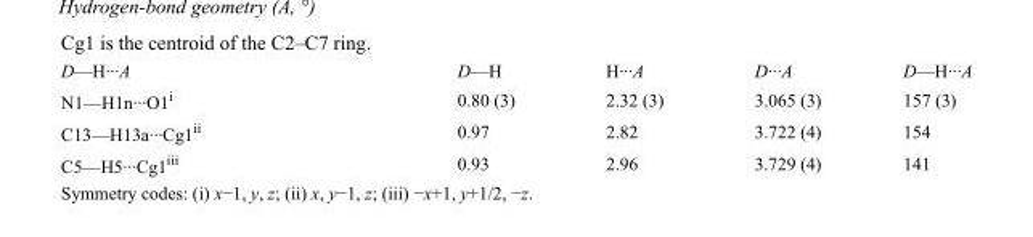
<table><tbody><tr><td>D—H···A</td><td>D—H</td><td>H···A</td><td>D···A</td><td>D—H···A</td></tr><tr><td>N1—H1n···O1<sup>i</sup></td><td>0.80 (3)</td><td>2.32 (3)</td><td>3.065 (3)</td><td>157 (3)</td></tr><tr><td>C13—H13a···Cg1<sup>ii</sup></td><td>0.97</td><td>2.82</td><td>3.722 (4)</td><td>154</td></tr><tr><td>C5—H5···Cg1<sup>iii</sup></td><td>0.93</td><td>2.96</td><td>3.729 (4)</td><td>141</td></tr></tbody></table>